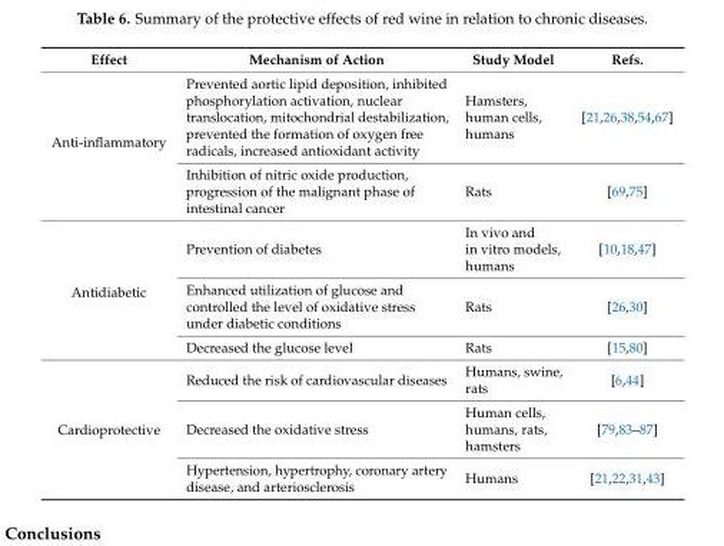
<table><thead><tr><td>Effect</td><td>Mechanism of Action</td><td>Study Model</td><td>Refs.</td></tr></thead><tbody><tr><td rowspan="2">Anti-inflammatory</td><td>Prevented aortic lipid deposition, inhibited phosphorylation activation, nuclear translocation, mitochondrial destabilization, prevented the formation of oxygen free radicals, increased antioxidant activity</td><td>Hamsters, human cells, humans</td><td>[21,26,38,54,67]</td></tr><tr><td>Inhibition of nitric oxide production, progression of the malignant phase of intestinal cancer</td><td>Rats</td><td>[69,75]</td></tr><tr><td rowspan="3">Antidiabetic</td><td>Prevention of diabetes</td><td>In vivo and in vitro models, humans</td><td>[10,18,47]</td></tr><tr><td>Enhanced utilization of glucose and controlled the level of oxidative stress under diabetic conditions</td><td>Rats</td><td>[26,30]</td></tr><tr><td>Decreased the glucose level</td><td>Rats</td><td>[15,80]</td></tr><tr><td rowspan="3">Cardioprotective</td><td>Reduced the risk of cardiovascular diseases</td><td>Humans, swine, rats</td><td>[6,44]</td></tr><tr><td>Decreased the oxidative stress</td><td>Human cells, humans, rats, hamsters</td><td>[79,83–87]</td></tr><tr><td>Hypertension, hypertrophy, coronary artery disease, and arteriosclerosis</td><td>Humans</td><td>[21,22,31,43]</td></tr></tbody></table>